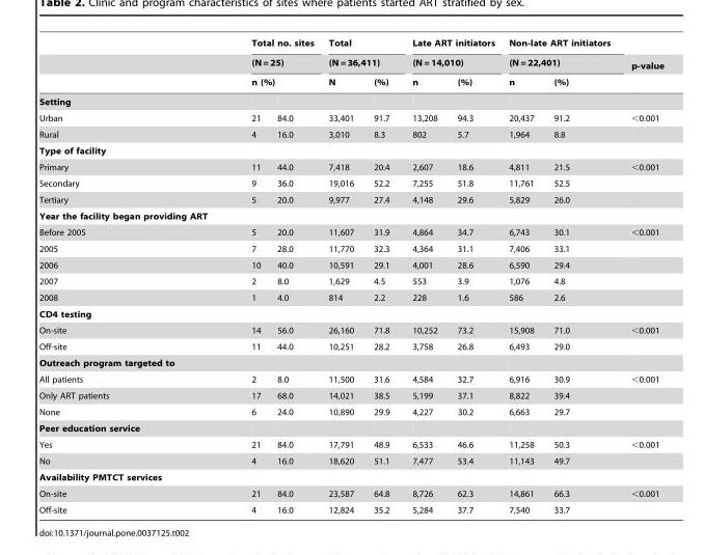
<table><thead><tr><td rowspan="4">Setting</td><td rowspan="3" colspan="2">Total no. sites (N = 25) n (%)</td><td rowspan="2" colspan="2">Total (N = 36,411)</td><td rowspan="2" colspan="2">Late ART initiators (N = 14,010)</td><td rowspan="2" colspan="2">Non-late ART initiators (N = 22,401)</td><td rowspan="4">p-value</td></tr><tr></tr><tr><td rowspan="2">N</td><td rowspan="2">(%)</td><td rowspan="2">n</td><td rowspan="2">(%)</td><td rowspan="2">n</td><td rowspan="2">(%)</td></tr><tr><td></td><td></td></tr></thead><tbody><tr><td>Urban</td><td>21</td><td>84.0</td><td>33,401</td><td>91.7</td><td>13,208</td><td>94.3</td><td>20,437</td><td>91.2</td><td>&lt;0.001</td></tr><tr><td>Rural</td><td>4</td><td>16.0</td><td>3,010</td><td>8.3</td><td>802</td><td>5.7</td><td>1,964</td><td>8.8</td><td></td></tr><tr><td colspan="10">Type of facility</td></tr><tr><td>Primary</td><td>11</td><td>44.0</td><td>7,418</td><td>20.4</td><td>2,607</td><td>18.6</td><td>4,811</td><td>21.5</td><td>&lt;0.001</td></tr><tr><td>Secondary</td><td>9</td><td>36.0</td><td>19,016</td><td>52.2</td><td>7,255</td><td>51.8</td><td>11,761</td><td>52.5</td><td></td></tr><tr><td>Tertiary</td><td>5</td><td>20.0</td><td>9,977</td><td>27.4</td><td>4,148</td><td>29.6</td><td>5,829</td><td>26.0</td><td></td></tr><tr><td colspan="10">Year the facility began providing ART</td></tr><tr><td>Before 2005</td><td>5</td><td>20.0</td><td>11,607</td><td>31.9</td><td>4,864</td><td>34.7</td><td>6,743</td><td>30.1</td><td>&lt;0.001</td></tr><tr><td>2005</td><td>7</td><td>28.0</td><td>11,770</td><td>32.3</td><td>4,364</td><td>31.1</td><td>7,406</td><td>33.1</td><td></td></tr><tr><td>2006</td><td>10</td><td>40.0</td><td>10,591</td><td>29.1</td><td>4,001</td><td>28.6</td><td>6,590</td><td>29.4</td><td></td></tr><tr><td>2007</td><td>2</td><td>8.0</td><td>1,629</td><td>4.5</td><td>553</td><td>3.9</td><td>1,076</td><td>4.8</td><td></td></tr><tr><td>2008</td><td>1</td><td>4.0</td><td>814</td><td>2.2</td><td>228</td><td>1.6</td><td>586</td><td>2.6</td><td></td></tr><tr><td colspan="10">CD4 testing</td></tr><tr><td>On-site</td><td>14</td><td>56.0</td><td>26,160</td><td>71.8</td><td>10,252</td><td>73.2</td><td>15,908</td><td>71.0</td><td>&lt;0.001</td></tr><tr><td>Off-site</td><td>11</td><td>44.0</td><td>10,251</td><td>28.2</td><td>3,758</td><td>26.8</td><td>6,493</td><td>29.0</td><td></td></tr><tr><td colspan="10">Outreach program targeted to</td></tr><tr><td>All patients</td><td>2</td><td>8.0</td><td>11,500</td><td>31.6</td><td>4,584</td><td>32.7</td><td>6,916</td><td>30.9</td><td>&lt;0.001</td></tr><tr><td>Only ART patients</td><td>17</td><td>68.0</td><td>14,021</td><td>38.5</td><td>5,199</td><td>37.1</td><td>8,822</td><td>39.4</td><td></td></tr><tr><td>None</td><td>6</td><td>24.0</td><td>10,890</td><td>29.9</td><td>4,227</td><td>30.2</td><td>6,663</td><td>29.7</td><td></td></tr><tr><td colspan="10">Peer education service</td></tr><tr><td>Yes</td><td>21</td><td>84.0</td><td>17,791</td><td>48.9</td><td>6,533</td><td>46.6</td><td>11,258</td><td>50.3</td><td>&lt;0.001</td></tr><tr><td>No</td><td>4</td><td>16.0</td><td>18,620</td><td>51.1</td><td>7,477</td><td>53.4</td><td>11,143</td><td>49.7</td><td></td></tr><tr><td colspan="10">Availability PMTCT services</td></tr><tr><td>On-site</td><td>21</td><td>84.0</td><td>23,587</td><td>64.8</td><td>8,726</td><td>62.3</td><td>14,861</td><td>66.3</td><td>&lt;0.001</td></tr><tr><td>Off-site</td><td>4</td><td>16.0</td><td>12,824</td><td>35.2</td><td>5,284</td><td>37.7</td><td>7,540</td><td>33.7</td><td></td></tr></tbody></table>